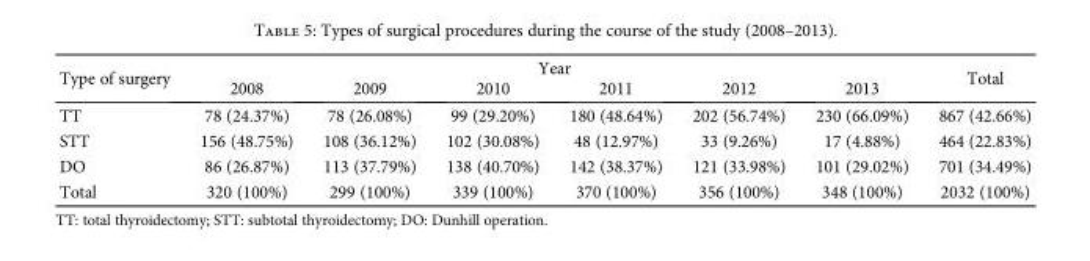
<table><thead><tr><td rowspan="2">Type of surgery</td><td colspan="6">Year</td><td rowspan="2">Total</td></tr><tr><td>2008</td><td>2009</td><td>2010</td><td>2011</td><td>2012</td><td>2013</td></tr></thead><tbody><tr><td>TT</td><td>78 (24.37%)</td><td>78 (26.08%)</td><td>99 (29.20%)</td><td>180 (48.64%)</td><td>202 (56.74%)</td><td>230 (66.09%)</td><td>867 (42.66%)</td></tr><tr><td>STT</td><td>156 (48.75%)</td><td>108 (36.12%)</td><td>102 (30.08%)</td><td>48 (12.97%)</td><td>33 (9.26%)</td><td>17 (4.88%)</td><td>464 (22.83%)</td></tr><tr><td>DO</td><td>86 (26.87%)</td><td>113 (37.79%)</td><td>138 (40.70%)</td><td>142 (38.37%)</td><td>121 (33.98%)</td><td>101 (29.02%)</td><td>701 (34.49%)</td></tr><tr><td>Total</td><td>320 (100%)</td><td>299 (100%)</td><td>339 (100%)</td><td>370 (100%)</td><td>356 (100%)</td><td>348 (100%)</td><td>2032 (100%)</td></tr></tbody></table>